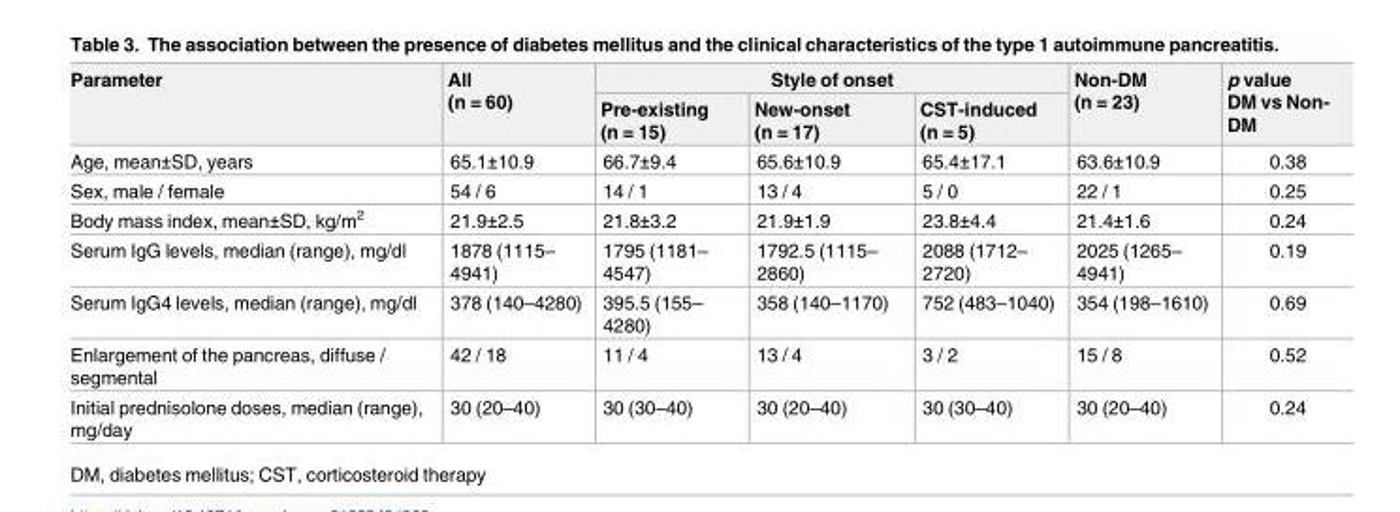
<table><thead><tr><td rowspan="2">Parameter</td><td rowspan="2">All (n = 60)</td><td colspan="3">Style of onset</td><td rowspan="2">Non-DM (n = 23)</td><td rowspan="2">p value DM vs Non- DM</td></tr><tr><td>Pre-existing (n = 15)</td><td>New-onset (n = 17)</td><td>CST-induced (n = 5)</td></tr></thead><tbody><tr><td>Age, mean±SD, years</td><td>65.1±10.9</td><td>66.7±9.4</td><td>65.6±10.9</td><td>65.4±17.1</td><td>63.6±10.9</td><td>0.38</td></tr><tr><td>Sex, male / female</td><td>54 / 6</td><td>14 / 1</td><td>13 / 4</td><td>5 / 0</td><td>22 / 1</td><td>0.25</td></tr><tr><td>Body mass index, mean±SD, kg/m<sup>2</sup></td><td>21.9±2.5</td><td>21.8±3.2</td><td>21.9±1.9</td><td>23.8±4.4</td><td>21.4±1.6</td><td>0.24</td></tr><tr><td>Serum IgG levels, median (range), mg/dl</td><td>1878 (1115– 4941)</td><td>1795 (1181– 4547)</td><td>1792.5 (1115– 2860)</td><td>2088 (1712– 2720)</td><td>2025 (1265– 4941)</td><td>0.19</td></tr><tr><td>Serum IgG4 levels, median (range), mg/dl</td><td>378 (140–4280)</td><td>395.5 (155– 4280)</td><td>358 (140–1170)</td><td>752 (483–1040)</td><td>354 (198–1610)</td><td>0.69</td></tr><tr><td>Enlargement of the pancreas, diffuse / segmental</td><td>42 / 18</td><td>11 / 4</td><td>13 / 4</td><td>3 / 2</td><td>15 / 8</td><td>0.52</td></tr><tr><td>Initial prednisolone doses, median (range), mg/day</td><td>30 (20–40)</td><td>30 (30–40)</td><td>30 (20–40)</td><td>30 (30–40)</td><td>30 (20–40)</td><td>0.24</td></tr></tbody></table>